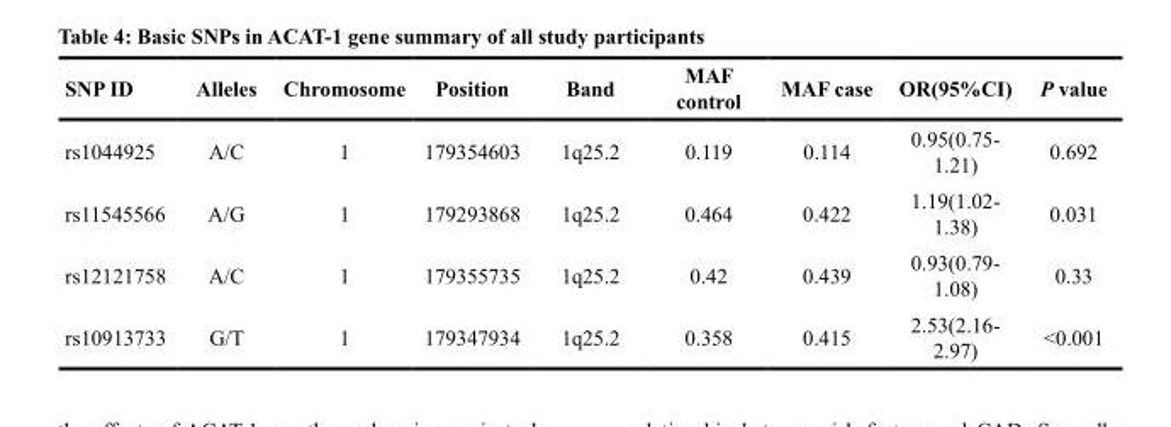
<table><thead><tr><td>SNP ID</td><td>Alleles</td><td>Chromosome</td><td>Position</td><td>Band</td><td>MAF control</td><td>MAF case</td><td>OR(95%CI)</td><td>P value</td></tr></thead><tbody><tr><td>rs1044925</td><td>A/C</td><td>1</td><td>179354603</td><td>1q25.2</td><td>0.119</td><td>0.114</td><td>0.95(0.75- 1.21)</td><td>0.692</td></tr><tr><td>rs11545566</td><td>A/G</td><td>1</td><td>179293868</td><td>1q25.2</td><td>0.464</td><td>0.422</td><td>1.19(1.02- 1.38)</td><td>0.031</td></tr><tr><td>rs12121758</td><td>A/C</td><td>1</td><td>179355735</td><td>1q25.2</td><td>0.42</td><td>0.439</td><td>0.93(0.79- 1.08)</td><td>0.33</td></tr><tr><td>rs10913733</td><td>G/T</td><td>1</td><td>179347934</td><td>1q25.2</td><td>0.358</td><td>0.415</td><td>2.53(2.16- 2.97)</td><td>&lt;0.001</td></tr></tbody></table>